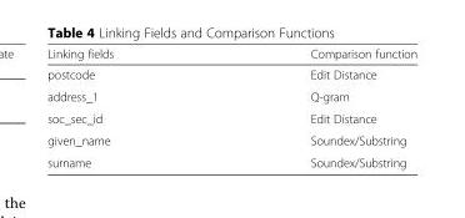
<table><thead><tr><td>Linking fields</td><td>Comparison function</td></tr></thead><tbody><tr><td>postcode</td><td>Edit Distance</td></tr><tr><td>address_1</td><td>Q-gram</td></tr><tr><td>soc_sec_id</td><td>Edit Distance</td></tr><tr><td>given_name</td><td>Soundex/Substring</td></tr><tr><td>surname</td><td>Soundex/Substring</td></tr></tbody></table>